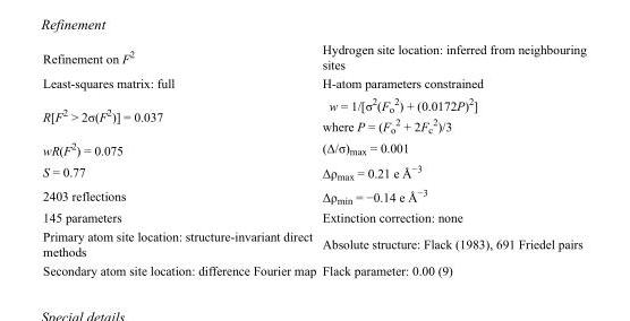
<table><tbody><tr><td>Refinement on F<sup>2</sup></td><td>Hydrogen site location: inferred from neighbouring sites</td></tr><tr><td>Least-squares matrix: full</td><td>H-atom parameters constrained</td></tr><tr><td>R[F<sup>2</sup> &gt; 2σ(F<sup>2</sup>)] = 0.037</td><td>w = 1/[σ<sup>2</sup>(F<sub>o</sub> <sup>2</sup>) + (0.0172P)<sup>2</sup>] where P = (F<sub>o</sub> <sup>2</sup> + 2F<sub>c</sub> <sup>2</sup>)/3</td></tr><tr><td>wR(F<sup>2</sup>) = 0.075</td><td>(Δ/σ)<sub>max</sub> = 0.001</td></tr><tr><td>S = 0.77</td><td>Δρ<sub>max</sub> = 0.21 e Å<sup>−3</sup></td></tr><tr><td>2403 reflections</td><td>Δρ<sub>min</sub> = −0.14 e Å<sup>−3</sup></td></tr><tr><td>145 parameters</td><td>Extinction correction: none</td></tr><tr><td>Primary atom site location: structure-invariant direct methods</td><td>Absolute structure: Flack (1983), 691 Friedel pairs</td></tr><tr><td>Secondary atom site location: difference Fourier map</td><td>Flack parameter: 0.00 (9)</td></tr></tbody></table>